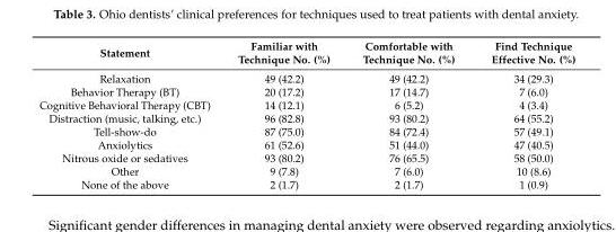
<table><thead><tr><td>Statement</td><td>Familiar with Technique No. (%)</td><td>Comfortable with Technique No. (%)</td><td>Find Technique Effective No. (%)</td></tr></thead><tbody><tr><td>Relaxation</td><td>49 (42.2)</td><td>49 (42.2)</td><td>34 (29.3)</td></tr><tr><td>Behavior Therapy (BT)</td><td>20 (17.2)</td><td>17 (14.7)</td><td>7 (6.0)</td></tr><tr><td>Cognitive Behavioral Therapy (CBT)</td><td>14 (12.1)</td><td>6 (5.2)</td><td>4 (3.4)</td></tr><tr><td>Distraction (music, talking, etc.)</td><td>96 (82.8)</td><td>93 (80.2)</td><td>64 (55.2)</td></tr><tr><td>Tell-show-do</td><td>87 (75.0)</td><td>84 (72.4)</td><td>57 (49.1)</td></tr><tr><td>Anxiolytics</td><td>61 (52.6)</td><td>51 (44.0)</td><td>47 (40.5)</td></tr><tr><td>Nitrous oxide or sedatives</td><td>93 (80.2)</td><td>76 (65.5)</td><td>58 (50.0)</td></tr><tr><td>Other</td><td>9 (7.8)</td><td>7 (6.0)</td><td>10 (8.6)</td></tr><tr><td>None of the above</td><td>2 (1.7)</td><td>2 (1.7)</td><td>1 (0.9)</td></tr></tbody></table>